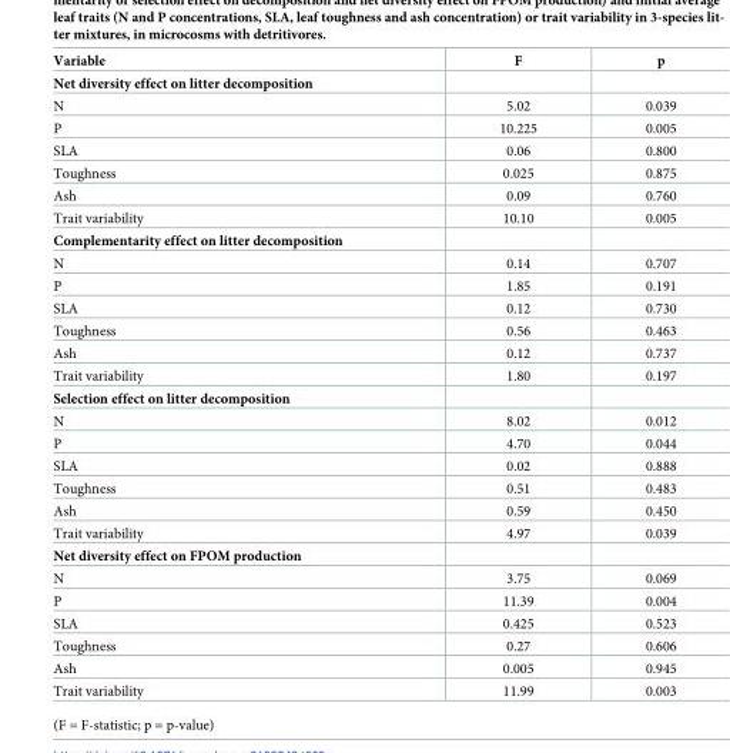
<table><thead><tr><td>Variable</td><td>F</td><td>p</td></tr></thead><tbody><tr><td colspan="3">Net diversity effect on litter decomposition</td></tr><tr><td>N</td><td>5.02</td><td>0.039</td></tr><tr><td>P</td><td>10.225</td><td>0.005</td></tr><tr><td>SLA</td><td>0.06</td><td>0.800</td></tr><tr><td>Toughness</td><td>0.025</td><td>0.875</td></tr><tr><td>Ash</td><td>0.09</td><td>0.760</td></tr><tr><td>Trait variability</td><td>10.10</td><td>0.005</td></tr><tr><td colspan="3">Complementarity effect on litter decomposition</td></tr><tr><td>N</td><td>0.14</td><td>0.707</td></tr><tr><td>P</td><td>1.85</td><td>0.191</td></tr><tr><td>SLA</td><td>0.12</td><td>0.730</td></tr><tr><td>Toughness</td><td>0.56</td><td>0.463</td></tr><tr><td>Ash</td><td>0.12</td><td>0.737</td></tr><tr><td>Trait variability</td><td>1.80</td><td>0.197</td></tr><tr><td colspan="3">Selection effect on litter decomposition</td></tr><tr><td>N</td><td>8.02</td><td>0.012</td></tr><tr><td>P</td><td>4.70</td><td>0.044</td></tr><tr><td>SLA</td><td>0.02</td><td>0.888</td></tr><tr><td>Toughness</td><td>0.51</td><td>0.483</td></tr><tr><td>Ash</td><td>0.59</td><td>0.450</td></tr><tr><td>Trait variability</td><td>4.97</td><td>0.039</td></tr><tr><td colspan="3">Net diversity effect on FPOM production</td></tr><tr><td>N</td><td>3.75</td><td>0.069</td></tr><tr><td>P</td><td>11.39</td><td>0.004</td></tr><tr><td>SLA</td><td>0.425</td><td>0.523</td></tr><tr><td>Toughness</td><td>0.27</td><td>0.606</td></tr><tr><td>Ash</td><td>0.005</td><td>0.945</td></tr><tr><td>Trait variability</td><td>11.99</td><td>0.003</td></tr></tbody></table>